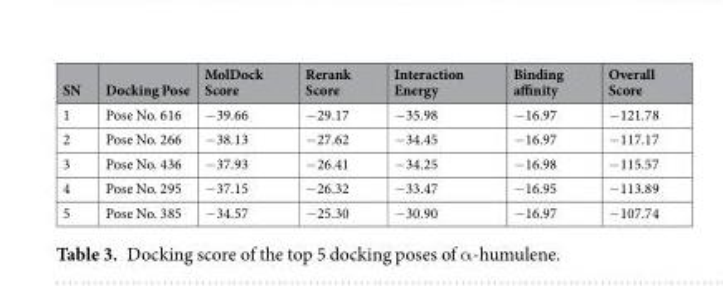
<table><thead><tr><td>SN</td><td>Docking Pose</td><td>MolDock Score</td><td>Rerank Score</td><td>Interaction Energy</td><td>Binding affinity</td><td>Overall Score</td></tr></thead><tbody><tr><td>1</td><td>Pose No. 616</td><td>−39.66</td><td>−29.17</td><td>−35.98</td><td>−16.97</td><td>−121.78</td></tr><tr><td>2</td><td>Pose No. 266</td><td>−38.13</td><td>−27.62</td><td>−34.45</td><td>−16.97</td><td>−117.17</td></tr><tr><td>3</td><td>Pose No. 436</td><td>−37.93</td><td>−26.41</td><td>−34.25</td><td>−16.98</td><td>−115.57</td></tr><tr><td>4</td><td>Pose No. 295</td><td>−37.15</td><td>−26.32</td><td>−33.47</td><td>−16.95</td><td>−113.89</td></tr><tr><td>5</td><td>Pose No. 385</td><td>−34.57</td><td>−25.30</td><td>−30.90</td><td>−16.97</td><td>−107.74</td></tr></tbody></table>